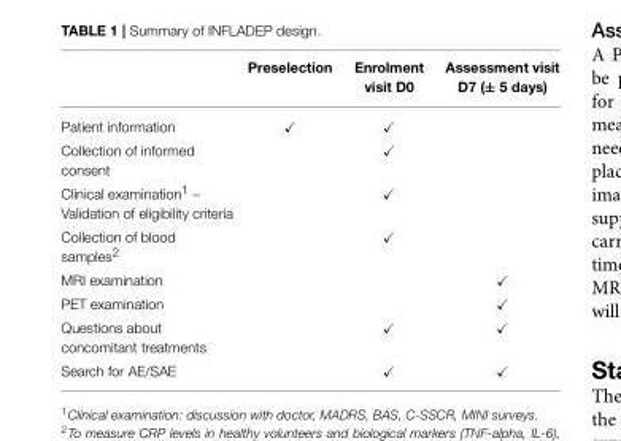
<table><thead><tr><td></td><td>Preselection</td><td>Enrolment visit D0</td><td>Assessment visit D7 (± 5 days)</td></tr></thead><tbody><tr><td>Patient information</td><td>✓</td><td>✓</td><td></td></tr><tr><td>Collection of informed consent</td><td></td><td>✓</td><td></td></tr><tr><td>Clinical examination<sup>1</sup> – Validation of eligibility criteria</td><td></td><td>✓</td><td></td></tr><tr><td>Collection of blood samples<sup>2</sup></td><td></td><td>✓</td><td></td></tr><tr><td>MRI examination</td><td></td><td></td><td>✓</td></tr><tr><td>PET examination</td><td></td><td></td><td>✓</td></tr><tr><td>Questions about concomitant treatments</td><td></td><td>✓</td><td>✓</td></tr><tr><td>Search for AE/SAE</td><td></td><td>✓</td><td>✓</td></tr></tbody></table>